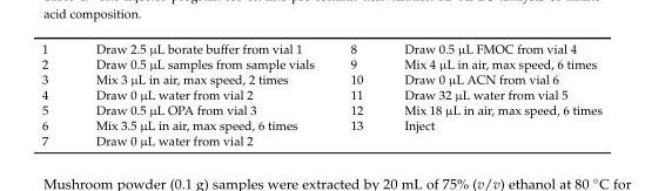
<table><tbody><tr><td>1</td><td>Draw 2.5 µL borate buffer from vial 1</td><td>8</td><td>Draw 0.5 µL FMOC from vial 4</td></tr><tr><td>2</td><td>Draw 0.5 µL samples from sample vials</td><td>9</td><td>Mix 4 µL in air, max speed, 6 times</td></tr><tr><td>3</td><td>Mix 3 µL in air, max speed, 2 times</td><td>10</td><td>Draw 0 µL ACN from vial 6</td></tr><tr><td>4</td><td>Draw 0 µL water from vial 2</td><td>11</td><td>Draw 32 µL water from vial 5</td></tr><tr><td>5</td><td>Draw 0.5 µL OPA from vial 3</td><td>12</td><td>Mix 18 µL in air, max speed, 6 times</td></tr><tr><td>6</td><td>Mix 3.5 µL in air, max speed, 6 times</td><td>13</td><td>Inject</td></tr><tr><td>7</td><td>Draw 0 µL water from vial 2</td><td></td><td></td></tr></tbody></table>